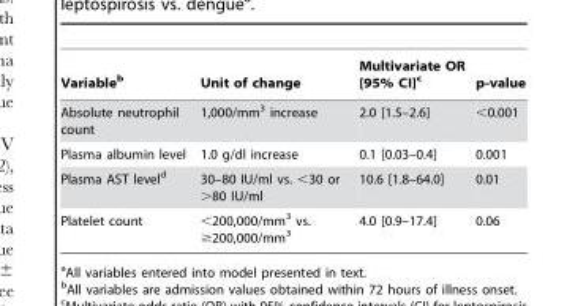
<table><thead><tr><td>Variable<sup>b</sup></td><td>Unit of change</td><td>Multivariate OR [95% CI]<sup>c</sup></td><td>p-value</td></tr></thead><tbody><tr><td>Absolute neutrophil count</td><td>1,000/mm<sup>3</sup> increase</td><td>2.0 [1.5–2.6]</td><td>&lt;0.001</td></tr><tr><td>Plasma albumin level</td><td>1.0 g/dl increase</td><td>0.1 [0.03–0.4]</td><td>0.001</td></tr><tr><td>Plasma AST level<sup>d</sup></td><td>30–80 IU/ml vs. &lt;30 or &gt;80 IU/ml</td><td>10.6 [1.8–64.0]</td><td>0.01</td></tr><tr><td>Platelet count</td><td>&lt;200,000/mm<sup>3</sup> vs. ≥200,000/mm<sup>3</sup></td><td>4.0 [0.9–17.4]</td><td>0.06</td></tr></tbody></table>